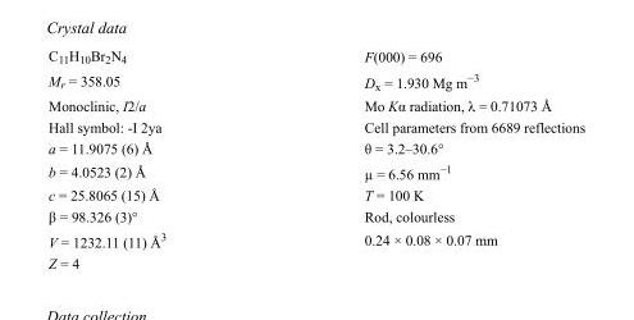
<table><tbody><tr><td>C<sub>11</sub>H<sub>10</sub>Br<sub>2</sub>N<sub>4</sub></td><td>F(000) = 696</td></tr><tr><td>M<sub>r</sub> = 358.05</td><td>D<sub>x</sub> = 1.930 Mg m<sup>−3</sup></td></tr><tr><td>Monoclinic, I2/a</td><td>Mo Kα radiation, λ = 0.71073 Å</td></tr><tr><td>Hall symbol: -I 2ya</td><td>Cell parameters from 6689 reflections</td></tr><tr><td>a = 11.9075 (6) Å</td><td>θ = 3.2–30.6°</td></tr><tr><td>b = 4.0523 (2) Å</td><td>µ = 6.56 mm<sup>−1</sup></td></tr><tr><td>c = 25.8065 (15) Å</td><td>T = 100 K</td></tr><tr><td>β = 98.326 (3)°</td><td>Rod, colourless</td></tr><tr><td>V = 1232.11 (11) Å<sup>3</sup></td><td>0.24 × 0.08 × 0.07 mm</td></tr><tr><td>Z = 4</td><td></td></tr></tbody></table>